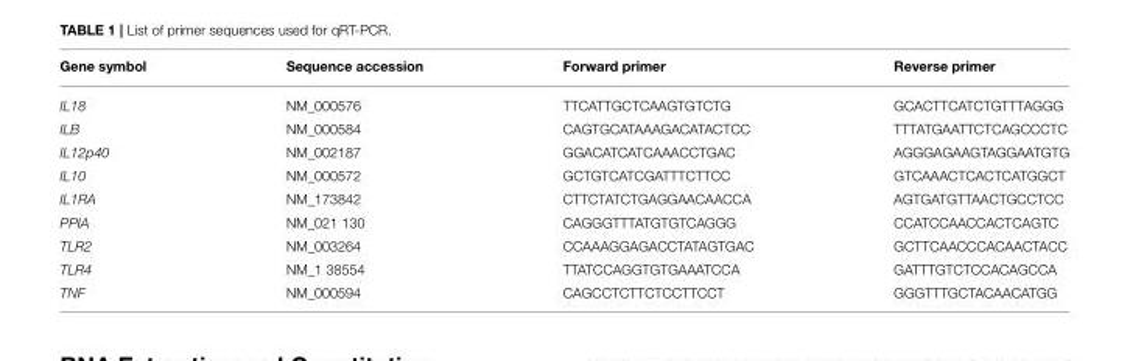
<table><thead><tr><td>Gene symbol</td><td>Sequence accession</td><td>Forward primer</td><td>Reverse primer</td></tr></thead><tbody><tr><td>IL18</td><td>NM_000576</td><td>TTCATTGCTCAAGTGTCTG</td><td>GCACTTCATCTGTTTAGGG</td></tr><tr><td>ILB</td><td>NM_000584</td><td>CAGTGCATAAAGACATACTCC</td><td>TTTATGAATTCTCAGCCCTC</td></tr><tr><td>IL12p40</td><td>NM_002187</td><td>GGACATCATCAAACCTGAC</td><td>AGGGAGAAGTAGGAATGTG</td></tr><tr><td>IL10</td><td>NM_000572</td><td>GCTGTCATCGATTTCTTCC</td><td>GTCAAACTCACTCATGGCT</td></tr><tr><td>IL1RA</td><td>NM_173842</td><td>CTTCTATCTGAGGAACAACCA</td><td>AGTGATGTTAACTGCCTCC</td></tr><tr><td>PPIA</td><td>NM_021 130</td><td>CAGGGTTTATGTGTCAGGG</td><td>CCATCCAACCACTCAGTC</td></tr><tr><td>TLR2</td><td>NM_003264</td><td>CCAAAGGAGACCTATAGTGAC</td><td>GCTTCAACCCACAACTACC</td></tr><tr><td>TLR4</td><td>NM_1 38554</td><td>TTATCCAGGTGTGAAATCCA</td><td>GATTTGTCTCCACAGCCA</td></tr><tr><td>TNF</td><td>NM_000594</td><td>CAGCCTCTTCTCCTTCCT</td><td>GGGTTTGCTACAACATGG</td></tr></tbody></table>